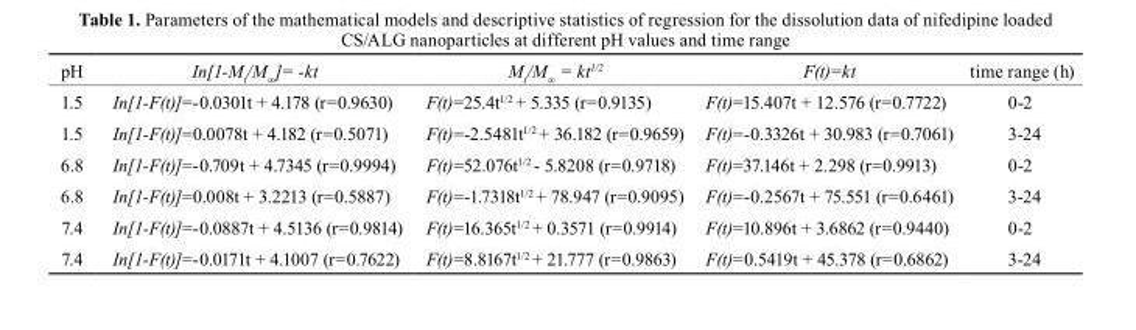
<table><thead><tr><td>pH</td><td>In[1-M<sub>t</sub>/M<sub>∞</sub>]= -kt</td><td>M<sub>t</sub>/M<sub>∞</sub> = kt<sup>1/2</sup></td><td>F(t)=kt</td><td>time range (h)</td></tr></thead><tbody><tr><td>1.5</td><td>In[1-F(t)]=-0.0301t + 4.178 (r=0.9630)</td><td>F(t)=25.4t<sup>1/2</sup> + 5.335 (r=0.9135)</td><td>F(t)=15.407t + 12.576 (r=0.7722)</td><td>0-2</td></tr><tr><td>1.5</td><td>In[1-F(t)]=0.0078t + 4.182 (r=0.5071)</td><td>F(t)=-2.5481t<sup>1/2</sup> + 36.182 (r=0.9659)</td><td>F(t)=-0.3326t + 30.983 (r=0.7061)</td><td>3-24</td></tr><tr><td>6.8</td><td>In[1-F(t)]=-0.709t + 4.7345 (r=0.9994)</td><td>F(t)=52.076t<sup>1/2</sup> - 5.8208 (r=0.9718)</td><td>F(t)=37.146t + 2.298 (r=0.9913)</td><td>0-2</td></tr><tr><td>6.8</td><td>In[1-F(t)]=0.008t + 3.2213 (r=0.5887)</td><td>F(t)=-1.7318t<sup>1/2</sup> + 78.947 (r=0.9095)</td><td>F(t)=-0.2567t + 75.551 (r=0.6461)</td><td>3-24</td></tr><tr><td>7.4</td><td>In[1-F(t)]=-0.0887t + 4.5136 (r=0.9814)</td><td>F(t)=16.365t<sup>1/2</sup> + 0.3571 (r=0.9914)</td><td>F(t)=10.896t + 3.6862 (r=0.9440)</td><td>0-2</td></tr><tr><td>7.4</td><td>In[1-F(t)]=-0.0171t + 4.1007 (r=0.7622)</td><td>F(t)=8.8167t<sup>1/2</sup> + 21.777 (r=0.9863)</td><td>F(t)=0.5419t + 45.378 (r=0.6862)</td><td>3-24</td></tr></tbody></table>